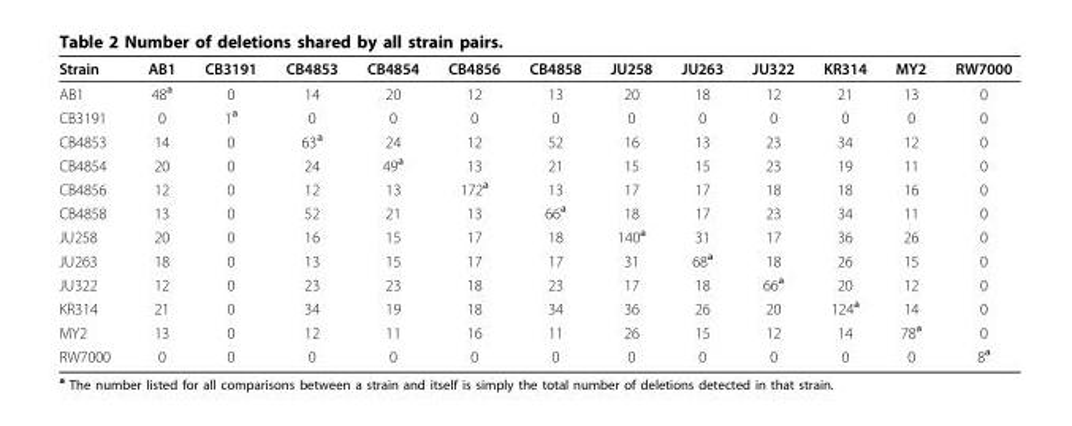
<table><thead><tr><td>Strain</td><td>AB1</td><td>CB3191</td><td>CB4853</td><td>CB4854</td><td>CB4856</td><td>CB4858</td><td>JU258</td><td>JU263</td><td>JU322</td><td>KR314</td><td>MY2</td><td>RW7000</td></tr></thead><tbody><tr><td>AB1</td><td>48<sup>a</sup></td><td>0</td><td>14</td><td>20</td><td>12</td><td>13</td><td>20</td><td>18</td><td>12</td><td>21</td><td>13</td><td>0</td></tr><tr><td>CB3191</td><td>0</td><td>1<sup>a</sup></td><td>0</td><td>0</td><td>0</td><td>0</td><td>0</td><td>0</td><td>0</td><td>0</td><td>0</td><td>0</td></tr><tr><td>CB4853</td><td>14</td><td>0</td><td>63<sup>a</sup></td><td>24</td><td>12</td><td>52</td><td>16</td><td>13</td><td>23</td><td>34</td><td>12</td><td>0</td></tr><tr><td>CB4854</td><td>20</td><td>0</td><td>24</td><td>49<sup>a</sup></td><td>13</td><td>21</td><td>15</td><td>15</td><td>23</td><td>19</td><td>11</td><td>0</td></tr><tr><td>CB4856</td><td>12</td><td>0</td><td>12</td><td>13</td><td>172<sup>a</sup></td><td>13</td><td>17</td><td>17</td><td>18</td><td>18</td><td>16</td><td>0</td></tr><tr><td>CB4858</td><td>13</td><td>0</td><td>52</td><td>21</td><td>13</td><td>66<sup>a</sup></td><td>18</td><td>17</td><td>23</td><td>34</td><td>11</td><td>0</td></tr><tr><td>JU258</td><td>20</td><td>0</td><td>16</td><td>15</td><td>17</td><td>18</td><td>140<sup>a</sup></td><td>31</td><td>17</td><td>36</td><td>26</td><td>0</td></tr><tr><td>JU263</td><td>18</td><td>0</td><td>13</td><td>15</td><td>17</td><td>17</td><td>31</td><td>68<sup>a</sup></td><td>18</td><td>26</td><td>15</td><td>0</td></tr><tr><td>JU322</td><td>12</td><td>0</td><td>23</td><td>23</td><td>18</td><td>23</td><td>17</td><td>18</td><td>66<sup>a</sup></td><td>20</td><td>12</td><td>0</td></tr><tr><td>KR314</td><td>21</td><td>0</td><td>34</td><td>19</td><td>18</td><td>34</td><td>36</td><td>26</td><td>20</td><td>124<sup>a</sup></td><td>14</td><td>0</td></tr><tr><td>MY2</td><td>13</td><td>0</td><td>12</td><td>11</td><td>16</td><td>11</td><td>26</td><td>15</td><td>12</td><td>14</td><td>78<sup>a</sup></td><td>0</td></tr><tr><td>RW7000</td><td>0</td><td>0</td><td>0</td><td>0</td><td>0</td><td>0</td><td>0</td><td>0</td><td>0</td><td>0</td><td>0</td><td>8<sup>a</sup></td></tr></tbody></table>